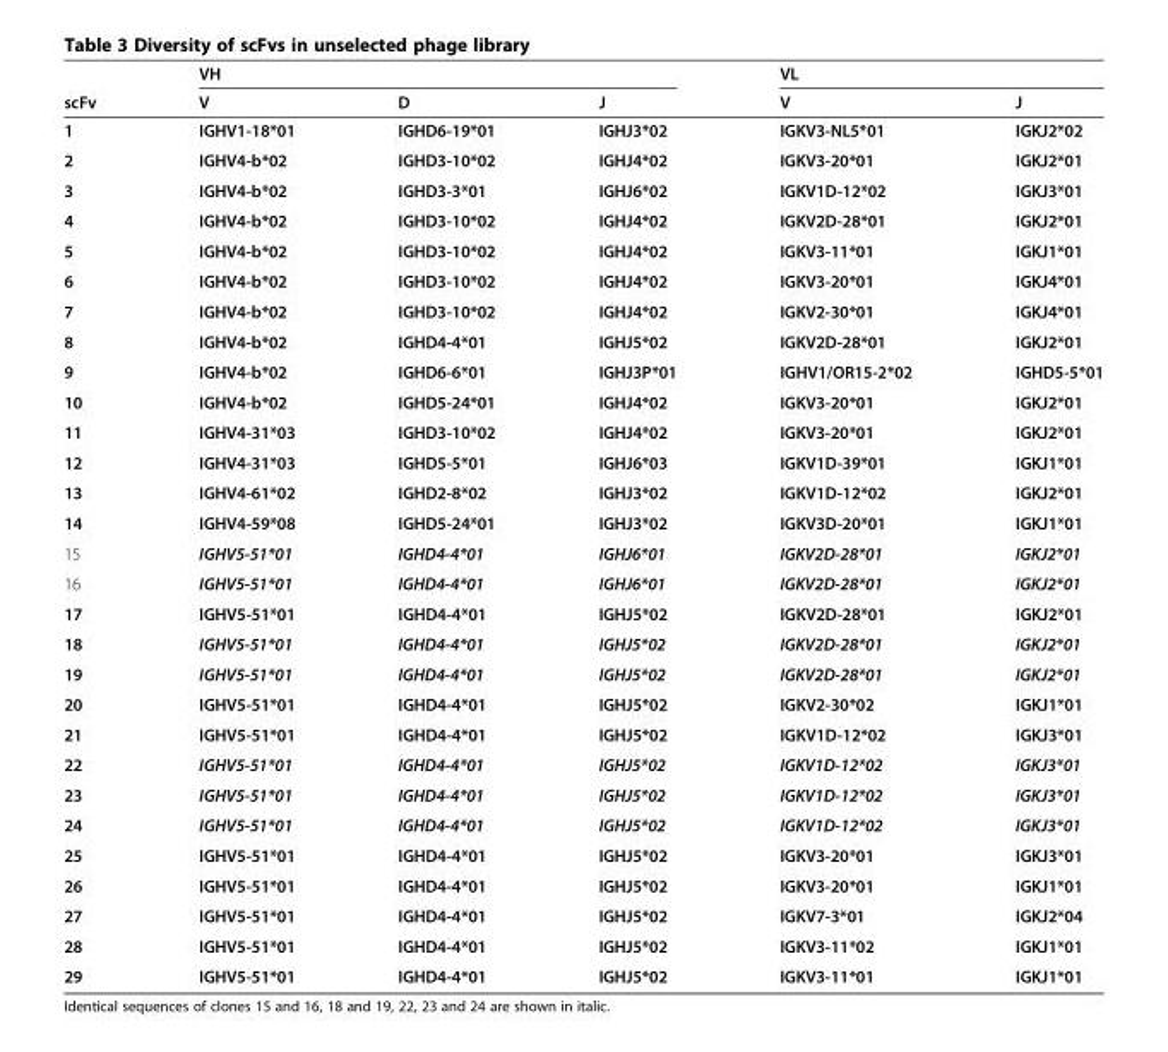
<table><thead><tr><td rowspan="2">scFv</td><td colspan="3">VH</td><td colspan="2">VL</td></tr><tr><td>V</td><td>D</td><td>J</td><td>V</td><td>J</td></tr></thead><tbody><tr><td>1</td><td>IGHV1-18*01</td><td>IGHD6-19*01</td><td>IGHJ3*02</td><td>IGKV3-NL5*01</td><td>IGKJ2*02</td></tr><tr><td>2</td><td>IGHV4-b*02</td><td>IGHD3-10*02</td><td>IGHJ4*02</td><td>IGKV3-20*01</td><td>IGKJ2*01</td></tr><tr><td>3</td><td>IGHV4-b*02</td><td>IGHD3-3*01</td><td>IGHJ6*02</td><td>IGKV1D-12*02</td><td>IGKJ3*01</td></tr><tr><td>4</td><td>IGHV4-b*02</td><td>IGHD3-10*02</td><td>IGHJ4*02</td><td>IGKV2D-28*01</td><td>IGKJ2*01</td></tr><tr><td>5</td><td>IGHV4-b*02</td><td>IGHD3-10*02</td><td>IGHJ4*02</td><td>IGKV3-11*01</td><td>IGKJ1*01</td></tr><tr><td>6</td><td>IGHV4-b*02</td><td>IGHD3-10*02</td><td>IGHJ4*02</td><td>IGKV3-20*01</td><td>IGKJ4*01</td></tr><tr><td>7</td><td>IGHV4-b*02</td><td>IGHD3-10*02</td><td>IGHJ4*02</td><td>IGKV2-30*01</td><td>IGKJ4*01</td></tr><tr><td>8</td><td>IGHV4-b*02</td><td>IGHD4-4*01</td><td>IGHJ5*02</td><td>IGKV2D-28*01</td><td>IGKJ2*01</td></tr><tr><td>9</td><td>IGHV4-b*02</td><td>IGHD6-6*01</td><td>IGHJ3P*01</td><td>IGHV1/OR15-2*02</td><td>IGHD5-5*01</td></tr><tr><td>10</td><td>IGHV4-b*02</td><td>IGHD5-24*01</td><td>IGHJ4*02</td><td>IGKV3-20*01</td><td>IGKJ2*01</td></tr><tr><td>11</td><td>IGHV4-31*03</td><td>IGHD3-10*02</td><td>IGHJ4*02</td><td>IGKV3-20*01</td><td>IGKJ2*01</td></tr><tr><td>12</td><td>IGHV4-31*03</td><td>IGHD5-5*01</td><td>IGHJ6*03</td><td>IGKV1D-39*01</td><td>IGKJ1*01</td></tr><tr><td>13</td><td>IGHV4-61*02</td><td>IGHD2-8*02</td><td>IGHJ3*02</td><td>IGKV1D-12*02</td><td>IGKJ2*01</td></tr><tr><td>14</td><td>IGHV4-59*08</td><td>IGHD5-24*01</td><td>IGHJ3*02</td><td>IGKV3D-20*01</td><td>IGKJ1*01</td></tr><tr><td>15</td><td>IGHV5-51*01</td><td>IGHD4-4*01</td><td>IGHJ6*01</td><td>IGKV2D-28*01</td><td>IGKJ2*01</td></tr><tr><td>16</td><td>IGHV5-51*01</td><td>IGHD4-4*01</td><td>IGHJ6*01</td><td>IGKV2D-28*01</td><td>IGKJ2*01</td></tr><tr><td>17</td><td>IGHV5-51*01</td><td>IGHD4-4*01</td><td>IGHJ5*02</td><td>IGKV2D-28*01</td><td>IGKJ2*01</td></tr><tr><td>18</td><td>IGHV5-51*01</td><td>IGHD4-4*01</td><td>IGHJ5*02</td><td>IGKV2D-28*01</td><td>IGKJ2*01</td></tr><tr><td>19</td><td>IGHV5-51*01</td><td>IGHD4-4*01</td><td>IGHJ5*02</td><td>IGKV2D-28*01</td><td>IGKJ2*01</td></tr><tr><td>20</td><td>IGHV5-51*01</td><td>IGHD4-4*01</td><td>IGHJ5*02</td><td>IGKV2-30*02</td><td>IGKJ1*01</td></tr><tr><td>21</td><td>IGHV5-51*01</td><td>IGHD4-4*01</td><td>IGHJ5*02</td><td>IGKV1D-12*02</td><td>IGKJ3*01</td></tr><tr><td>22</td><td>IGHV5-51*01</td><td>IGHD4-4*01</td><td>IGHJ5*02</td><td>IGKV1D-12*02</td><td>IGKJ3*01</td></tr><tr><td>23</td><td>IGHV5-51*01</td><td>IGHD4-4*01</td><td>IGHJ5*02</td><td>IGKV1D-12*02</td><td>IGKJ3*01</td></tr><tr><td>24</td><td>IGHV5-51*01</td><td>IGHD4-4*01</td><td>IGHJ5*02</td><td>IGKV1D-12*02</td><td>IGKJ3*01</td></tr><tr><td>25</td><td>IGHV5-51*01</td><td>IGHD4-4*01</td><td>IGHJ5*02</td><td>IGKV3-20*01</td><td>IGKJ3*01</td></tr><tr><td>26</td><td>IGHV5-51*01</td><td>IGHD4-4*01</td><td>IGHJ5*02</td><td>IGKV3-20*01</td><td>IGKJ1*01</td></tr><tr><td>27</td><td>IGHV5-51*01</td><td>IGHD4-4*01</td><td>IGHJ5*02</td><td>IGKV7-3*01</td><td>IGKJ2*04</td></tr><tr><td>28</td><td>IGHV5-51*01</td><td>IGHD4-4*01</td><td>IGHJ5*02</td><td>IGKV3-11*02</td><td>IGKJ1*01</td></tr><tr><td>29</td><td>IGHV5-51*01</td><td>IGHD4-4*01</td><td>IGHJ5*02</td><td>IGKV3-11*01</td><td>IGKJ1*01</td></tr></tbody></table>